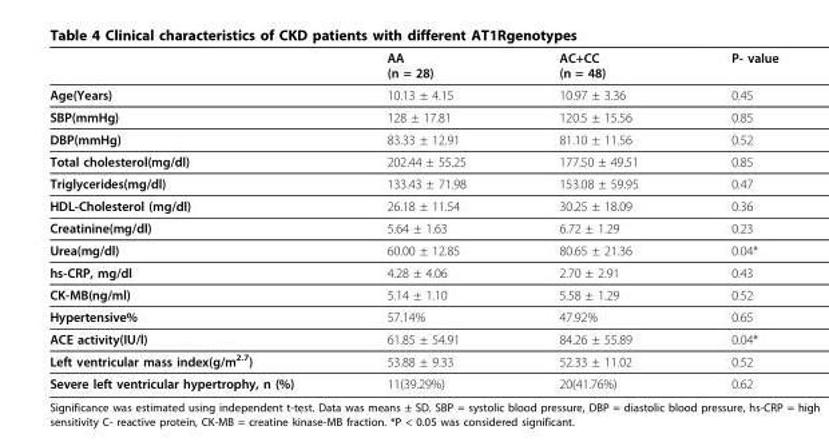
<table><thead><tr><td></td><td>AA (n = 28)</td><td>AC+CC (n = 48)</td><td>P- value</td></tr></thead><tbody><tr><td>Age(Years)</td><td>10.13 ± 4.15</td><td>10.97 ± 3.36</td><td>0.45</td></tr><tr><td>SBP(mmHg)</td><td>128 ± 17.81</td><td>120.5 ± 15.56</td><td>0.85</td></tr><tr><td>DBP(mmHg)</td><td>83.33 ± 12.91</td><td>81.10 ± 11.56</td><td>0.52</td></tr><tr><td>Total cholesterol(mg/dl)</td><td>202.44 ± 55.25</td><td>177.50 ± 49.51</td><td>0.85</td></tr><tr><td>Triglycerides(mg/dl)</td><td>133.43 ± 71.98</td><td>153.08 ± 59.95</td><td>0.47</td></tr><tr><td>HDL-Cholesterol (mg/dl)</td><td>26.18 ± 11.54</td><td>30.25 ± 18.09</td><td>0.36</td></tr><tr><td>Creatinine(mg/dl)</td><td>5.64 ± 1.63</td><td>6.72 ± 1.29</td><td>0.23</td></tr><tr><td>Urea(mg/dl)</td><td>60.00 ± 12.85</td><td>80.65 ± 21.36</td><td>0.04*</td></tr><tr><td>hs-CRP, mg/dl</td><td>4.28 ± 4.06</td><td>2.70 ± 2.91</td><td>0.43</td></tr><tr><td>CK-MB(ng/ml)</td><td>5.14 ± 1.10</td><td>5.58 ± 1.29</td><td>0.52</td></tr><tr><td>Hypertensive%</td><td>57.14%</td><td>47.92%</td><td>0.65</td></tr><tr><td>ACE activity(IU/l)</td><td>61.85 ± 54.91</td><td>84.26 ± 55.89</td><td>0.04*</td></tr><tr><td>Left ventricular mass index(g/m<sup>2.7</sup>)</td><td>53.88 ± 9.33</td><td>52.33 ± 11.02</td><td>0.52</td></tr><tr><td>Severe left ventricular hypertrophy, n (%)</td><td>11(39.29%)</td><td>20(41.76%)</td><td>0.62</td></tr></tbody></table>